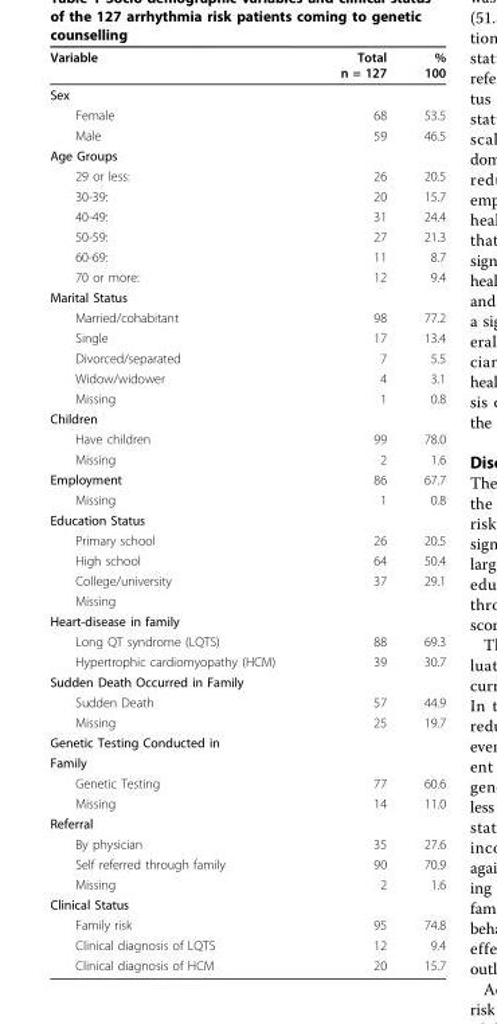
<table><thead><tr><td>Variable</td><td>Total n = 127</td><td>% 100</td></tr></thead><tbody><tr><td colspan="3">Sex</td></tr><tr><td>Female</td><td>68</td><td>53.5</td></tr><tr><td>Male</td><td>59</td><td>46.5</td></tr><tr><td colspan="3">Age Groups</td></tr><tr><td>29 or less:</td><td>26</td><td>20.5</td></tr><tr><td>30-39:</td><td>20</td><td>15.7</td></tr><tr><td>40-49:</td><td>31</td><td>24.4</td></tr><tr><td>50-59:</td><td>27</td><td>21.3</td></tr><tr><td>60-69:</td><td>11</td><td>8.7</td></tr><tr><td>70 or more:</td><td>12</td><td>9.4</td></tr><tr><td colspan="3">Marital Status</td></tr><tr><td>Married/cohabitant</td><td>98</td><td>77.2</td></tr><tr><td>Single</td><td>17</td><td>13.4</td></tr><tr><td>Divorced/separated</td><td>7</td><td>5.5</td></tr><tr><td>Widow/widower</td><td>4</td><td>3.1</td></tr><tr><td>Missing</td><td>1</td><td>0.8</td></tr><tr><td colspan="3">Children</td></tr><tr><td>Have children</td><td>99</td><td>78.0</td></tr><tr><td>Missing</td><td>2</td><td>1.6</td></tr><tr><td>Employment</td><td>86</td><td>67.7</td></tr><tr><td>Missing</td><td>1</td><td>0.8</td></tr><tr><td colspan="3">Education Status</td></tr><tr><td>Primary school</td><td>26</td><td>20.5</td></tr><tr><td>High school</td><td>64</td><td>50.4</td></tr><tr><td>College/university</td><td>37</td><td>29.1</td></tr><tr><td colspan="3">Missing</td></tr><tr><td colspan="3">Heart-disease in family</td></tr><tr><td>Long QT syndrome (LQTS)</td><td>88</td><td>69.3</td></tr><tr><td>Hypertrophic cardiomyopathy (HCM)</td><td>39</td><td>30.7</td></tr><tr><td colspan="3">Sudden Death Occurred in Family</td></tr><tr><td>Sudden Death</td><td>57</td><td>44.9</td></tr><tr><td>Missing</td><td>25</td><td>19.7</td></tr><tr><td colspan="3">Genetic Testing Conducted in</td></tr><tr><td colspan="3">Family</td></tr><tr><td>Genetic Testing</td><td>77</td><td>60.6</td></tr><tr><td>Missing</td><td>14</td><td>11.0</td></tr><tr><td colspan="3">Referral</td></tr><tr><td>By physician</td><td>35</td><td>27.6</td></tr><tr><td>Self referred through family</td><td>90</td><td>70.9</td></tr><tr><td>Missing</td><td>2</td><td>1.6</td></tr><tr><td colspan="3">Clinical Status</td></tr><tr><td>Family risk</td><td>95</td><td>74.8</td></tr><tr><td>Clinical diagnosis of LQTS</td><td>12</td><td>9.4</td></tr><tr><td>Clinical diagnosis of HCM</td><td>20</td><td>15.7</td></tr></tbody></table>